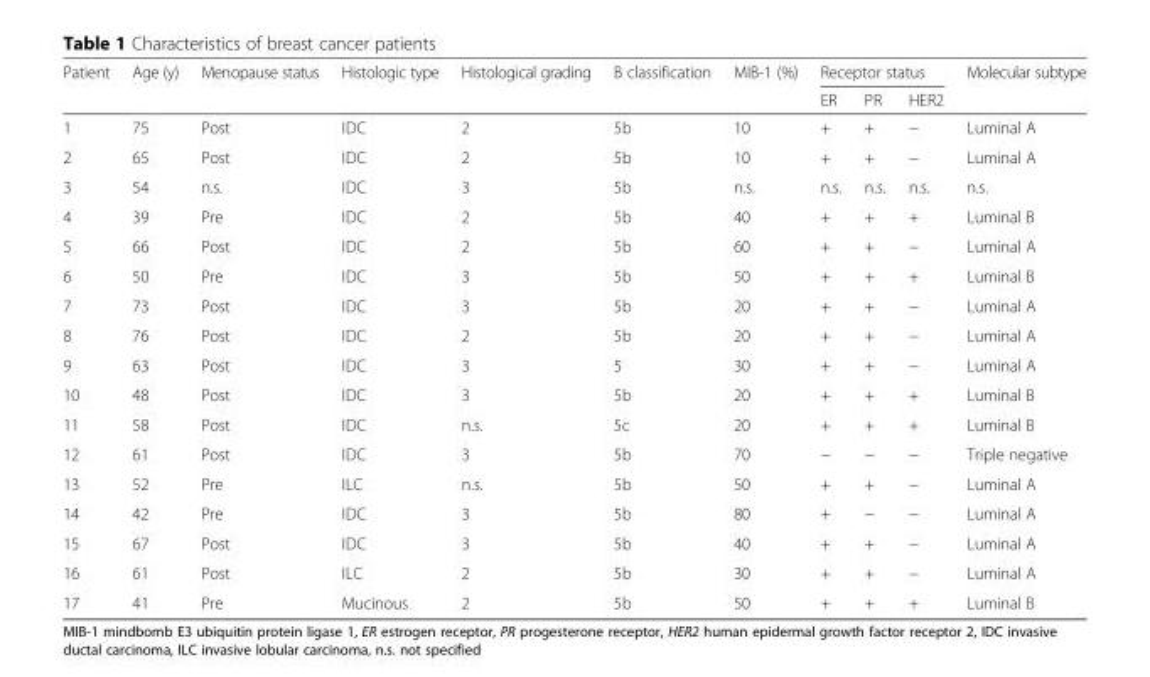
<table><thead><tr><td rowspan="2">Patient</td><td rowspan="2">Age (y)</td><td rowspan="2">Menopause status</td><td rowspan="2">Histologic type</td><td rowspan="2">Histological grading</td><td rowspan="2">B classification</td><td rowspan="2">MIB-1 (%)</td><td colspan="3">Receptor status</td><td rowspan="2">Molecular subtype</td></tr><tr><td>ER</td><td>PR</td><td>HER2</td></tr></thead><tbody><tr><td>1</td><td>75</td><td>Post</td><td>IDC</td><td>2</td><td>5b</td><td>10</td><td>+</td><td>+</td><td>−</td><td>Luminal A</td></tr><tr><td>2</td><td>65</td><td>Post</td><td>IDC</td><td>2</td><td>5b</td><td>10</td><td>+</td><td>+</td><td>−</td><td>Luminal A</td></tr><tr><td>3</td><td>54</td><td>n.s.</td><td>IDC</td><td>3</td><td>5b</td><td>n.s.</td><td>n.s.</td><td>n.s.</td><td>n.s.</td><td>n.s.</td></tr><tr><td>4</td><td>39</td><td>Pre</td><td>IDC</td><td>2</td><td>5b</td><td>40</td><td>+</td><td>+</td><td>+</td><td>Luminal B</td></tr><tr><td>5</td><td>66</td><td>Post</td><td>IDC</td><td>2</td><td>5b</td><td>60</td><td>+</td><td>+</td><td>−</td><td>Luminal A</td></tr><tr><td>6</td><td>50</td><td>Pre</td><td>IDC</td><td>3</td><td>5b</td><td>50</td><td>+</td><td>+</td><td>+</td><td>Luminal B</td></tr><tr><td>7</td><td>73</td><td>Post</td><td>IDC</td><td>3</td><td>5b</td><td>20</td><td>+</td><td>+</td><td>−</td><td>Luminal A</td></tr><tr><td>8</td><td>76</td><td>Post</td><td>IDC</td><td>2</td><td>5b</td><td>20</td><td>+</td><td>+</td><td>−</td><td>Luminal A</td></tr><tr><td>9</td><td>63</td><td>Post</td><td>IDC</td><td>3</td><td>5</td><td>30</td><td>+</td><td>+</td><td>−</td><td>Luminal A</td></tr><tr><td>10</td><td>48</td><td>Post</td><td>IDC</td><td>3</td><td>5b</td><td>20</td><td>+</td><td>+</td><td>+</td><td>Luminal B</td></tr><tr><td>11</td><td>58</td><td>Post</td><td>IDC</td><td>n.s.</td><td>5c</td><td>20</td><td>+</td><td>+</td><td>+</td><td>Luminal B</td></tr><tr><td>12</td><td>61</td><td>Post</td><td>IDC</td><td>3</td><td>5b</td><td>70</td><td>−</td><td>−</td><td>−</td><td>Triple negative</td></tr><tr><td>13</td><td>52</td><td>Pre</td><td>ILC</td><td>n.s.</td><td>5b</td><td>50</td><td>+</td><td>+</td><td>−</td><td>Luminal A</td></tr><tr><td>14</td><td>42</td><td>Pre</td><td>IDC</td><td>3</td><td>5b</td><td>80</td><td>+</td><td>−</td><td>−</td><td>Luminal A</td></tr><tr><td>15</td><td>67</td><td>Post</td><td>IDC</td><td>3</td><td>5b</td><td>40</td><td>+</td><td>+</td><td>−</td><td>Luminal A</td></tr><tr><td>16</td><td>61</td><td>Post</td><td>ILC</td><td>2</td><td>5b</td><td>30</td><td>+</td><td>+</td><td>−</td><td>Luminal A</td></tr><tr><td>17</td><td>41</td><td>Pre</td><td>Mucinous</td><td>2</td><td>5b</td><td>50</td><td>+</td><td>+</td><td>+</td><td>Luminal B</td></tr></tbody></table>